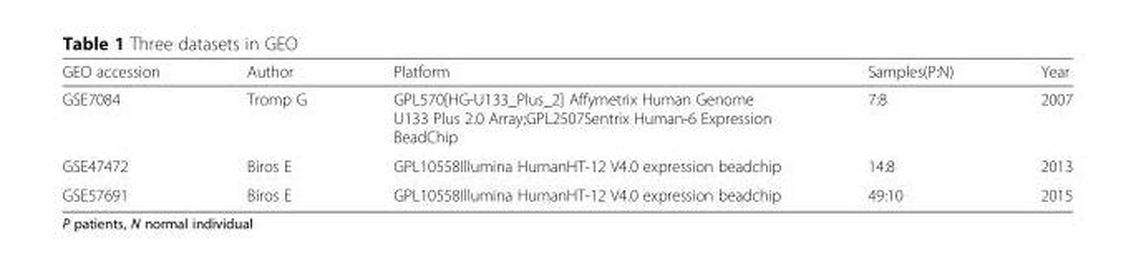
<table><thead><tr><td>GEO accession</td><td>Author</td><td>Platform</td><td>Samples(P:N)</td><td>Year</td></tr></thead><tbody><tr><td>GSE7084</td><td>Tromp G</td><td>GPL570[HG-U133_Plus_2] Affymetrix Human Genome U133 Plus 2.0 Array;GPL2507Sentrix Human-6 Expression BeadChip</td><td>7:8</td><td>2007</td></tr><tr><td>GSE47472</td><td>Biros E</td><td>GPL10558Illumina HumanHT-12 V4.0 expression beadchip</td><td>14:8</td><td>2013</td></tr><tr><td>GSE57691</td><td>Biros E</td><td>GPL10558Illumina HumanHT-12 V4.0 expression beadchip</td><td>49:10</td><td>2015</td></tr></tbody></table>